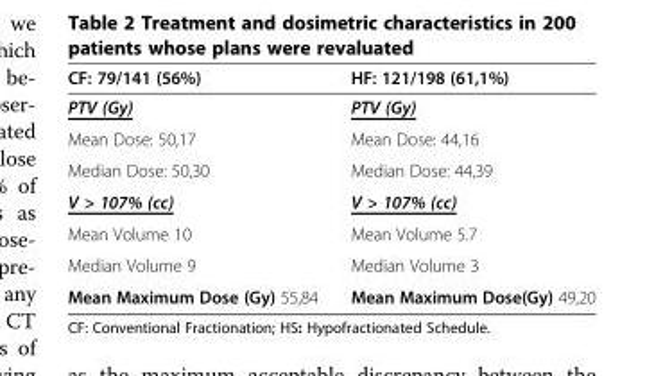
<table><thead><tr><td>CF: 79/141 (56%)</td><td>HF: 121/198 (61,1%)</td></tr></thead><tbody><tr><td>PTV (Gy)</td><td>PTV (Gy)</td></tr><tr><td>Mean Dose: 50,17</td><td>Mean Dose: 44,16</td></tr><tr><td>Median Dose: 50,30</td><td>Median Dose: 44,39</td></tr><tr><td>V &gt; 107% (cc)</td><td>V &gt; 107% (cc)</td></tr><tr><td>Mean Volume 10</td><td>Mean Volume 5.7</td></tr><tr><td>Median Volume 9</td><td>Median Volume 3</td></tr><tr><td>Mean Maximum Dose (Gy) 55,84</td><td>Mean Maximum Dose(Gy) 49,20</td></tr></tbody></table>